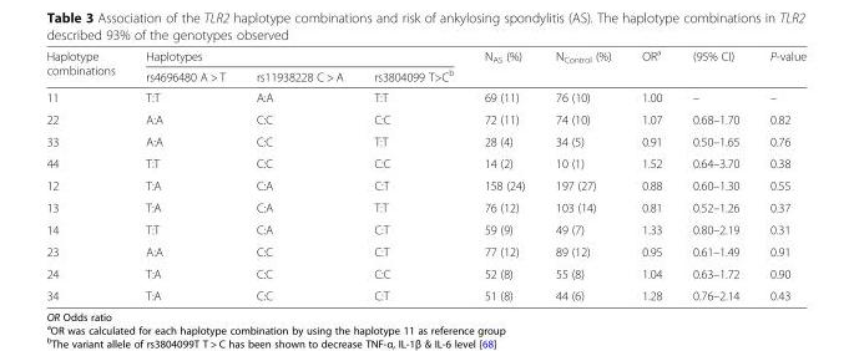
<table><thead><tr><td rowspan="2">Haplotype combinations</td><td colspan="3">Haplotypes</td><td rowspan="2">N<sub>AS</sub> (%)</td><td rowspan="2">N<sub>Control</sub> (%)</td><td rowspan="2">OR<sup>a</sup></td><td rowspan="2">(95% CI)</td><td rowspan="2">P-value</td></tr><tr><td>rs4696480 A &gt; T</td><td>rs11938228 C &gt; A</td><td>rs3804099 T&gt;C<sup>b</sup></td></tr></thead><tbody><tr><td>11</td><td>T:T</td><td>A:A</td><td>T:T</td><td>69 (11)</td><td>76 (10)</td><td>1.00</td><td>–</td><td>–</td></tr><tr><td>22</td><td>A:A</td><td>C:C</td><td>C:C</td><td>72 (11)</td><td>74 (10)</td><td>1.07</td><td>0.68–1.70</td><td>0.82</td></tr><tr><td>33</td><td>A:A</td><td>C:C</td><td>T:T</td><td>28 (4)</td><td>34 (5)</td><td>0.91</td><td>0.50–1.65</td><td>0.76</td></tr><tr><td>44</td><td>T:T</td><td>C:C</td><td>C:C</td><td>14 (2)</td><td>10 (1)</td><td>1.52</td><td>0.64–3.70</td><td>0.38</td></tr><tr><td>12</td><td>T:A</td><td>C:A</td><td>C:T</td><td>158 (24)</td><td>197 (27)</td><td>0.88</td><td>0.60–1.30</td><td>0.55</td></tr><tr><td>13</td><td>T:A</td><td>C:A</td><td>T:T</td><td>76 (12)</td><td>103 (14)</td><td>0.81</td><td>0.52–1.26</td><td>0.37</td></tr><tr><td>14</td><td>T:T</td><td>C:A</td><td>C:T</td><td>59 (9)</td><td>49 (7)</td><td>1.33</td><td>0.80–2.19</td><td>0.31</td></tr><tr><td>23</td><td>A:A</td><td>C:C</td><td>C:T</td><td>77 (12)</td><td>89 (12)</td><td>0.95</td><td>0.61–1.49</td><td>0.91</td></tr><tr><td>24</td><td>T:A</td><td>C:C</td><td>C:C</td><td>52 (8)</td><td>55 (8)</td><td>1.04</td><td>0.63–1.72</td><td>0.90</td></tr><tr><td>34</td><td>T:A</td><td>C:C</td><td>C:T</td><td>51 (8)</td><td>44 (6)</td><td>1.28</td><td>0.76–2.14</td><td>0.43</td></tr></tbody></table>